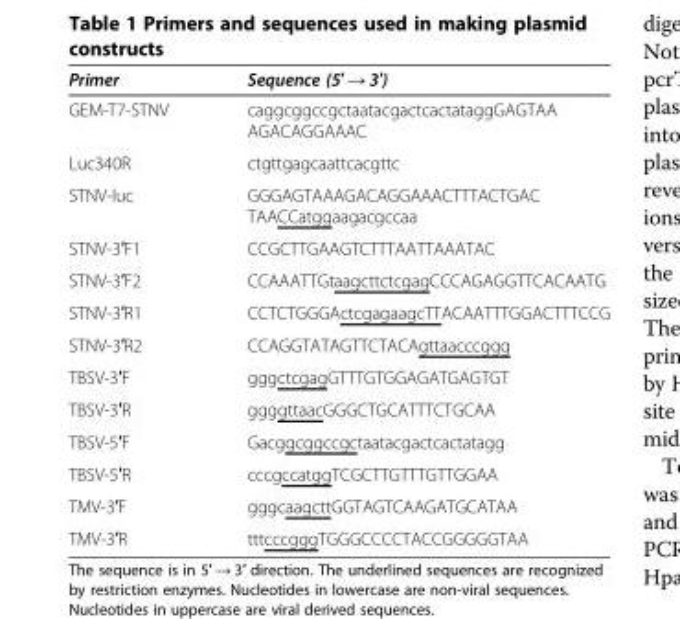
<table><thead><tr><td>Primer</td><td>Sequence (5′ → 3′)</td></tr></thead><tbody><tr><td>GEM-T7-STNV</td><td>caggcggccgctaatacgactcactataggGAGTAA AGACAGGAAAC</td></tr><tr><td>Luc340R</td><td>ctgttgagcaattcacgttc</td></tr><tr><td>STNV-luc</td><td>GGGAGTAAAGACAGGAAACTTTACTGAC TAACCatggaagacgccaa</td></tr><tr><td>STNV-3′F1</td><td>CCGCTTGAAGTCTTTAATTAAATAC</td></tr><tr><td>STNV-3′F2</td><td>CCAAATTGtaagcttctcgagCCCAGAGGTTCACAATG</td></tr><tr><td>STNV-3′R1</td><td>CCTCTGGGActcgagaagcTTACAATTTGGACTTTCCG</td></tr><tr><td>STNV-3′R2</td><td>CCAGGTATAGTTCTACAgttaacccggg</td></tr><tr><td>TBSV-3′F</td><td>gggctcgagGTTTGTGGAGATGAGTGT</td></tr><tr><td>TBSV-3′R</td><td>ggggttaacGGGCTGCATTTCTGCAA</td></tr><tr><td>TBSV-5′F</td><td>Gacggcggccgctaatacgactcactatagg</td></tr><tr><td>TBSV-5′R</td><td>cccgccatggTCGCTTGTTTGTTGGAA</td></tr><tr><td>TMV-3′F</td><td>gggcaagcttGGTAGTCAAGATGCATAA</td></tr><tr><td>TMV-3′R</td><td>tttcccgggTGGGCCCCTACCGGGGGTAA</td></tr></tbody></table>